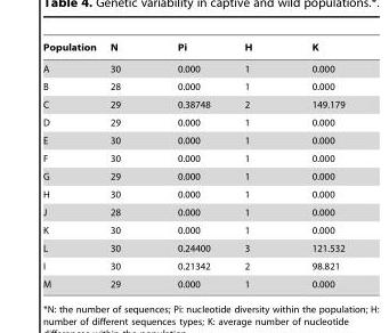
<table><thead><tr><td>Population</td><td>N</td><td>Pi</td><td>H</td><td>K</td></tr></thead><tbody><tr><td>A</td><td>30</td><td>0.000</td><td>1</td><td>0.000</td></tr><tr><td>B</td><td>28</td><td>0.000</td><td>1</td><td>0.000</td></tr><tr><td>C</td><td>29</td><td>0.38748</td><td>2</td><td>149.179</td></tr><tr><td>D</td><td>29</td><td>0.000</td><td>1</td><td>0.000</td></tr><tr><td>E</td><td>30</td><td>0.000</td><td>1</td><td>0.000</td></tr><tr><td>F</td><td>30</td><td>0.000</td><td>1</td><td>0.000</td></tr><tr><td>G</td><td>29</td><td>0.000</td><td>1</td><td>0.000</td></tr><tr><td>H</td><td>30</td><td>0.000</td><td>1</td><td>0.000</td></tr><tr><td>J</td><td>28</td><td>0.000</td><td>1</td><td>0.000</td></tr><tr><td>K</td><td>30</td><td>0.000</td><td>1</td><td>0.000</td></tr><tr><td>L</td><td>30</td><td>0.24400</td><td>3</td><td>121.532</td></tr><tr><td>I</td><td>30</td><td>0.21342</td><td>2</td><td>98.821</td></tr><tr><td>M</td><td>29</td><td>0.000</td><td>1</td><td>0.000</td></tr></tbody></table>